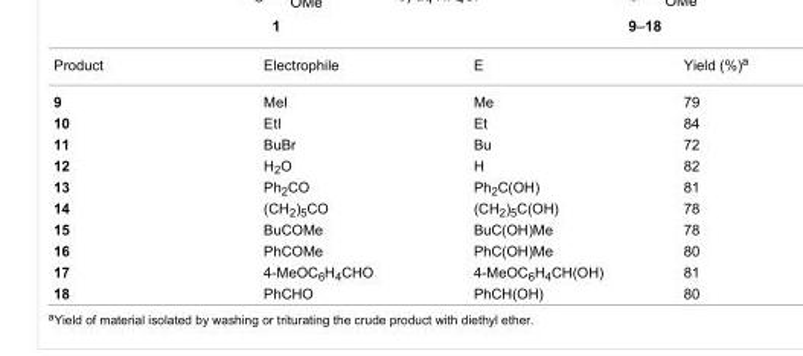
<table><tbody><tr><td>Product</td><td>Electrophile</td><td>E</td><td>Yield (%)<sup>a</sup></td></tr><tr><td>9</td><td>MeI</td><td>Me</td><td>79</td></tr><tr><td>10</td><td>EtI</td><td>Et</td><td>84</td></tr><tr><td>11</td><td>BuBr</td><td>Bu</td><td>72</td></tr><tr><td>12</td><td>H<sub>2</sub>O</td><td>H</td><td>82</td></tr><tr><td>13</td><td>Ph<sub>2</sub>CO</td><td>Ph<sub>2</sub>C(OH)</td><td>81</td></tr><tr><td>14</td><td>(CH<sub>2</sub>)<sub>5</sub>CO</td><td>(CH<sub>2</sub>)<sub>5</sub>C(OH)</td><td>78</td></tr><tr><td>15</td><td>BuCOMe</td><td>BuC(OH)Me</td><td>78</td></tr><tr><td>16</td><td>PhCOMe</td><td>PhC(OH)Me</td><td>80</td></tr><tr><td>17</td><td>4-MeOC<sub>6</sub>H<sub>4</sub>CHO</td><td>4-MeOC<sub>6</sub>H<sub>4</sub>CH(OH)</td><td>81</td></tr><tr><td>18</td><td>PhCHO</td><td>PhCH(OH)</td><td>80</td></tr></tbody></table>